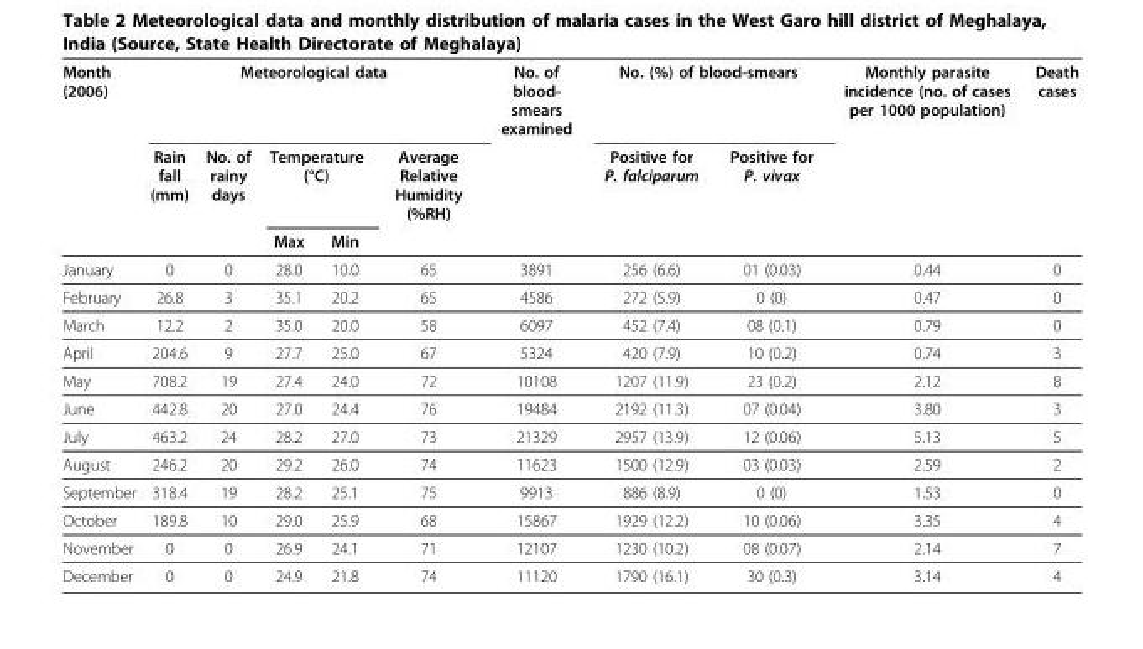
<table><thead><tr><td rowspan="3">Month (2006)</td><td colspan="5">Meteorological data</td><td rowspan="3">No. of blood- smears examined</td><td colspan="2">No. (%) of blood-smears</td><td rowspan="3">Monthly parasite incidence (no. of cases per 1000 population)</td><td rowspan="3">Death cases</td></tr><tr><td rowspan="2">Rain fall (mm)</td><td rowspan="2">No. of rainy days</td><td colspan="2">Temperature (°C)</td><td rowspan="2">Average Relative Humidity (%RH)</td><td rowspan="2">Positive for P. falciparum</td><td rowspan="2">Positive for P. vivax</td></tr><tr><td>Max</td><td>Min</td></tr></thead><tbody><tr><td>January</td><td>0</td><td>0</td><td>28.0</td><td>10.0</td><td>65</td><td>3891</td><td>256 (6.6)</td><td>01 (0.03)</td><td>0.44</td><td>0</td></tr><tr><td>February</td><td>26.8</td><td>3</td><td>35.1</td><td>20.2</td><td>65</td><td>4586</td><td>272 (5.9)</td><td>0 (0)</td><td>0.47</td><td>0</td></tr><tr><td>March</td><td>12.2</td><td>2</td><td>35.0</td><td>20.0</td><td>58</td><td>6097</td><td>452 (7.4)</td><td>08 (0.1)</td><td>0.79</td><td>0</td></tr><tr><td>April</td><td>204.6</td><td>9</td><td>27.7</td><td>25.0</td><td>67</td><td>5324</td><td>420 (7.9)</td><td>10 (0.2)</td><td>0.74</td><td>3</td></tr><tr><td>May</td><td>708.2</td><td>19</td><td>27.4</td><td>24.0</td><td>72</td><td>10108</td><td>1207 (11.9)</td><td>23 (0.2)</td><td>2.12</td><td>8</td></tr><tr><td>June</td><td>442.8</td><td>20</td><td>27.0</td><td>24.4</td><td>76</td><td>19484</td><td>2192 (11.3)</td><td>07 (0.04)</td><td>3.80</td><td>3</td></tr><tr><td>July</td><td>463.2</td><td>24</td><td>28.2</td><td>27.0</td><td>73</td><td>21329</td><td>2957 (13.9)</td><td>12 (0.06)</td><td>5.13</td><td>5</td></tr><tr><td>August</td><td>246.2</td><td>20</td><td>29.2</td><td>26.0</td><td>74</td><td>11623</td><td>1500 (12.9)</td><td>03 (0.03)</td><td>2.59</td><td>2</td></tr><tr><td>September</td><td>318.4</td><td>19</td><td>28.2</td><td>25.1</td><td>75</td><td>9913</td><td>886 (8.9)</td><td>0 (0)</td><td>1.53</td><td>0</td></tr><tr><td>October</td><td>189.8</td><td>10</td><td>29.0</td><td>25.9</td><td>68</td><td>15867</td><td>1929 (12.2)</td><td>10 (0.06)</td><td>3.35</td><td>4</td></tr><tr><td>November</td><td>0</td><td>0</td><td>26.9</td><td>24.1</td><td>71</td><td>12107</td><td>1230 (10.2)</td><td>08 (0.07)</td><td>2.14</td><td>7</td></tr><tr><td>December</td><td>0</td><td>0</td><td>24.9</td><td>21.8</td><td>74</td><td>11120</td><td>1790 (16.1)</td><td>30 (0.3)</td><td>3.14</td><td>4</td></tr></tbody></table>